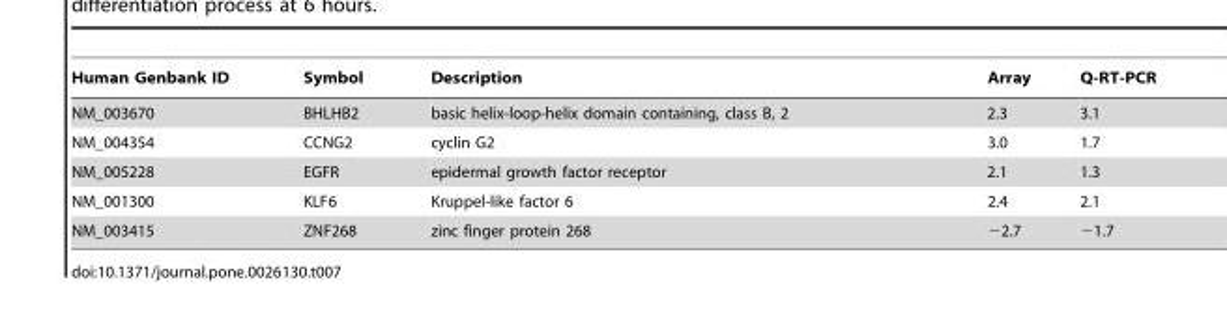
<table><thead><tr><td>Human Genbank ID</td><td>Symbol</td><td>Description</td><td>Array</td><td>Q-RT-PCR</td></tr></thead><tbody><tr><td>NM_003670</td><td>BHLHB2</td><td>basic helix-loop-helix domain containing, class B, 2</td><td>2.3</td><td>3.1</td></tr><tr><td>NM_004354</td><td>CCNG2</td><td>cyclin G2</td><td>3.0</td><td>1.7</td></tr><tr><td>NM_005228</td><td>EGFR</td><td>epidermal growth factor receptor</td><td>2.1</td><td>1.3</td></tr><tr><td>NM_001300</td><td>KLF6</td><td>Kruppel-like factor 6</td><td>2.4</td><td>2.1</td></tr><tr><td>NM_003415</td><td>ZNF268</td><td>zinc finger protein 268</td><td>−2.7</td><td>−1.7</td></tr></tbody></table>